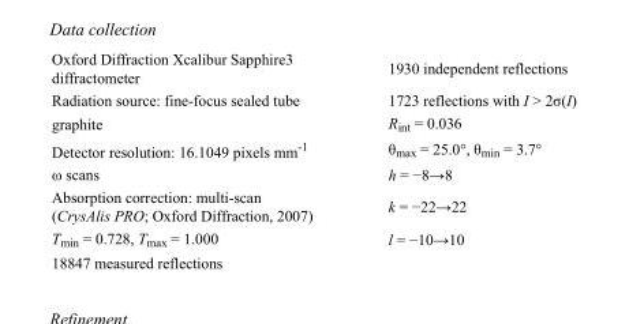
<table><tbody><tr><td>Oxford Diffraction Xcalibur Sapphire3 diffractometer</td><td>1930 independent reflections</td></tr><tr><td>Radiation source: fine-focus sealed tube</td><td>1723 reflections with I &gt; 2σ(I)</td></tr><tr><td>graphite</td><td>R<sub>int</sub> = 0.036</td></tr><tr><td>Detector resolution: 16.1049 pixels mm<sup>-1</sup></td><td>θ<sub>max</sub> = 25.0°, θ<sub>min</sub> = 3.7°</td></tr><tr><td>ω scans</td><td>h = −8→8</td></tr><tr><td>Absorption correction: multi-scan (CrysAlis PRO; Oxford Diffraction, 2007)</td><td>k = −22→22</td></tr><tr><td>T<sub>min</sub> = 0.728, T<sub>max</sub> = 1.000</td><td>l = −10→10</td></tr><tr><td>18847 measured reflections</td><td></td></tr></tbody></table>